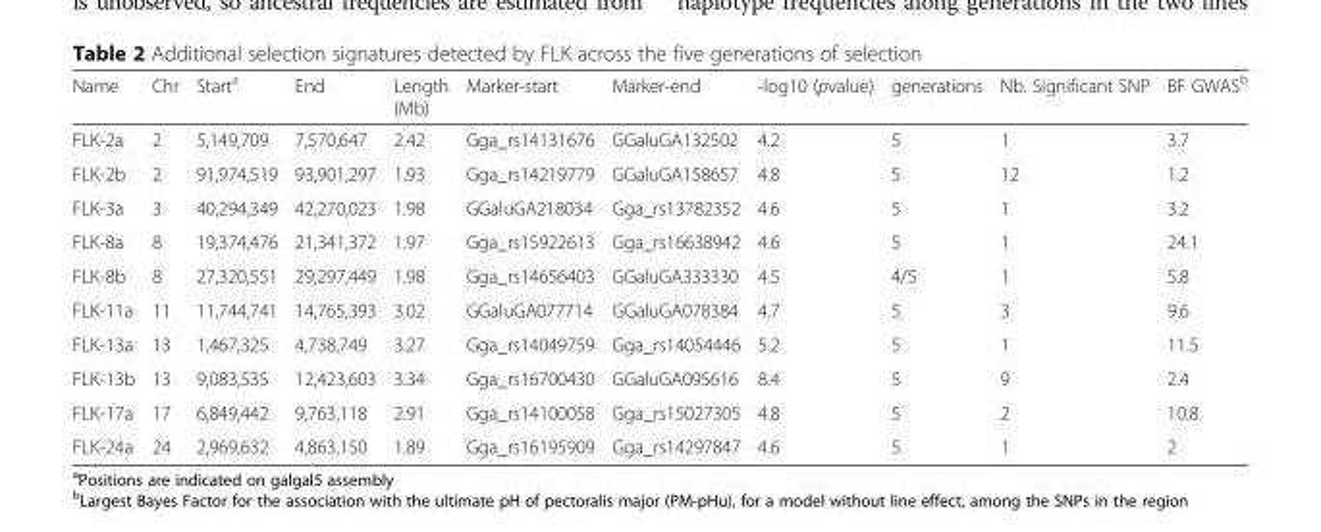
<table><thead><tr><td>Name</td><td>Chr</td><td>Start<sup>a</sup></td><td>End</td><td>Length (Mb)</td><td>Marker-start</td><td>Marker-end</td><td>-log10 (pvalue)</td><td>generations</td><td>Nb. Significant SNP</td><td>BF GWAS<sup>b</sup></td></tr></thead><tbody><tr><td>FLK-2a</td><td>2</td><td>5,149,709</td><td>7,570,647</td><td>2.42</td><td>Gga_rs14131676</td><td>GGaluGA132502</td><td>4.2</td><td>5</td><td>1</td><td>3.7</td></tr><tr><td>FLK-2b</td><td>2</td><td>91,974,519</td><td>93,901,297</td><td>1.93</td><td>Gga_rs14219779</td><td>GGaluGA158657</td><td>4.8</td><td>5</td><td>12</td><td>1.2</td></tr><tr><td>FLK-3a</td><td>3</td><td>40,294,349</td><td>42,270,023</td><td>1.98</td><td>GGaluGA218034</td><td>Gga_rs13782352</td><td>4.6</td><td>5</td><td>1</td><td>3.2</td></tr><tr><td>FLK-8a</td><td>8</td><td>19,374,476</td><td>21,341,372</td><td>1.97</td><td>Gga_rs15922613</td><td>Gga_rs16638942</td><td>4.6</td><td>5</td><td>1</td><td>24.1</td></tr><tr><td>FLK-8b</td><td>8</td><td>27,320,551</td><td>29,297,449</td><td>1.98</td><td>Gga_rs14656403</td><td>GGaluGA333330</td><td>4.5</td><td>4/5</td><td>1</td><td>5.8</td></tr><tr><td>FLK-11a</td><td>11</td><td>11,744,741</td><td>14,765,393</td><td>3.02</td><td>GGaluGA077714</td><td>GGaluGA078384</td><td>4.7</td><td>5</td><td>3</td><td>9.6</td></tr><tr><td>FLK-13a</td><td>13</td><td>1,467,325</td><td>4,738,749</td><td>3.27</td><td>Gga_rs14049759</td><td>Gga_rs14054446</td><td>5.2</td><td>5</td><td>1</td><td>11.5</td></tr><tr><td>FLK-13b</td><td>13</td><td>9,083,535</td><td>12,423,603</td><td>3.34</td><td>Gga_rs16700430</td><td>GGaluGA095616</td><td>8.4</td><td>5</td><td>9</td><td>2.4</td></tr><tr><td>FLK-17a</td><td>17</td><td>6,849,442</td><td>9,763,118</td><td>2.91</td><td>Gga_rs14100058</td><td>Gga_rs15027305</td><td>4.8</td><td>5</td><td>2</td><td>10.8</td></tr><tr><td>FLK-24a</td><td>24</td><td>2,969,632</td><td>4,863,150</td><td>1.89</td><td>Gga_rs16195909</td><td>Gga_rs14297847</td><td>4.6</td><td>5</td><td>1</td><td>2</td></tr></tbody></table>